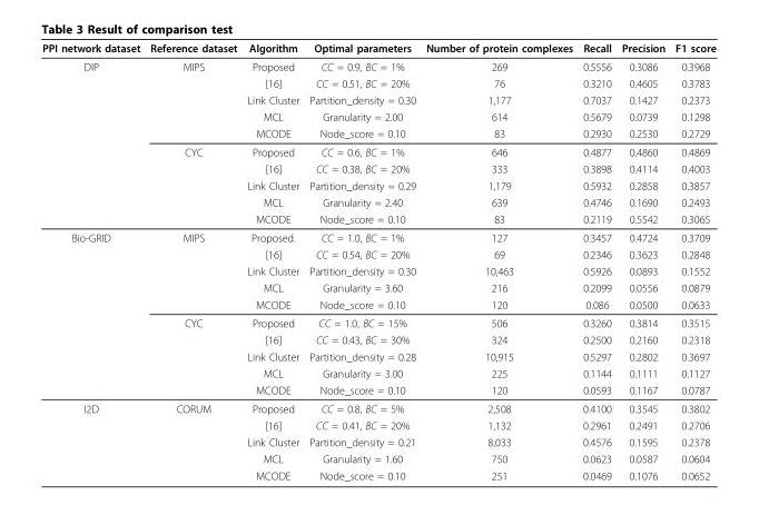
<table><thead><tr><td>PPI network dataset</td><td>Reference dataset</td><td>Algorithm</td><td>Optimal parameters</td><td>Number of protein complexes</td><td>Recall</td><td>Precision</td><td>F1 score</td></tr></thead><tbody><tr><td rowspan="10">DIP</td><td>MIPS</td><td>Proposed</td><td>CC = 0.9, BC = 1%</td><td>269</td><td>0.5556</td><td>0.3086</td><td>0.3968</td></tr><tr><td></td><td>[16]</td><td>CC = 0.51, BC = 20%</td><td>76</td><td>0.3210</td><td>0.4605</td><td>0.3783</td></tr><tr><td></td><td>Link Cluster</td><td>Partition_density = 0.30</td><td>1,177</td><td>0.7037</td><td>0.1427</td><td>0.2373</td></tr><tr><td></td><td>MCL</td><td>Granularity = 2.00</td><td>614</td><td>0.5679</td><td>0.0739</td><td>0.1298</td></tr><tr><td></td><td>MCODE</td><td>Node_score = 0.10</td><td>83</td><td>0.2930</td><td>0.2530</td><td>0.2729</td></tr><tr><td>CYC</td><td>Proposed</td><td>CC = 0.6, BC = 1%</td><td>646</td><td>0.4877</td><td>0.4860</td><td>0.4869</td></tr><tr><td></td><td>[16]</td><td>CC = 0.38, BC = 20%</td><td>333</td><td>0.3898</td><td>0.4114</td><td>0.4003</td></tr><tr><td></td><td>Link Cluster</td><td>Partition_density = 0.29</td><td>1,179</td><td>0.5932</td><td>0.2858</td><td>0.3857</td></tr><tr><td></td><td>MCL</td><td>Granularity = 2.40</td><td>639</td><td>0.4746</td><td>0.1690</td><td>0.2493</td></tr><tr><td></td><td>MCODE</td><td>Node_score = 0.10</td><td>83</td><td>0.2119</td><td>0.5542</td><td>0.3065</td></tr><tr><td rowspan="10">Bio-GRID</td><td>MIPS</td><td>Proposed.</td><td>CC = 1.0, BC = 1%</td><td>127</td><td>0.3457</td><td>0.4724</td><td>0.3709</td></tr><tr><td></td><td>[16]</td><td>CC = 0.54, BC = 20%</td><td>69</td><td>0.2346</td><td>0.3623</td><td>0.2848</td></tr><tr><td></td><td>Link Cluster</td><td>Partition_density = 0.30</td><td>10,463</td><td>0.5926</td><td>0.0893</td><td>0.1552</td></tr><tr><td></td><td>MCL</td><td>Granularity = 3.60</td><td>216</td><td>0.2099</td><td>0.0556</td><td>0.0879</td></tr><tr><td></td><td>MCODE</td><td>Node_score = 0.10</td><td>120</td><td>0.086</td><td>0.0500</td><td>0.0633</td></tr><tr><td>CYC</td><td>Proposed</td><td>CC = 1.0, BC = 15%</td><td>506</td><td>0.3260</td><td>0.3814</td><td>0.3515</td></tr><tr><td></td><td>[16]</td><td>CC = 0.43, BC = 30%</td><td>324</td><td>0.2500</td><td>0.2160</td><td>0.2318</td></tr><tr><td></td><td>Link Cluster</td><td>Partition_density = 0.28</td><td>10,915</td><td>0.5297</td><td>0.2802</td><td>0.3697</td></tr><tr><td></td><td>MCL</td><td>Granularity = 3.00</td><td>225</td><td>0.1144</td><td>0.1111</td><td>0.1127</td></tr><tr><td></td><td>MCODE</td><td>Node_score = 0.10</td><td>120</td><td>0.0593</td><td>0.1167</td><td>0.0787</td></tr><tr><td rowspan="5">I2D</td><td>CORUM</td><td>Proposed</td><td>CC = 0.8, BC = 5%</td><td>2,508</td><td>0.4100</td><td>0.3545</td><td>0.3802</td></tr><tr><td></td><td>[16]</td><td>CC = 0.41, BC = 20%</td><td>1,132</td><td>0.2961</td><td>0.2491</td><td>0.2706</td></tr><tr><td></td><td>Link Cluster</td><td>Partition_density = 0.21</td><td>8,033</td><td>0.4576</td><td>0.1595</td><td>0.2378</td></tr><tr><td></td><td>MCL</td><td>Granularity = 1.60</td><td>750</td><td>0.0623</td><td>0.0587</td><td>0.0604</td></tr><tr><td></td><td>MCODE</td><td>Node_score = 0.10</td><td>251</td><td>0.0469</td><td>0.1076</td><td>0.0652</td></tr></tbody></table>